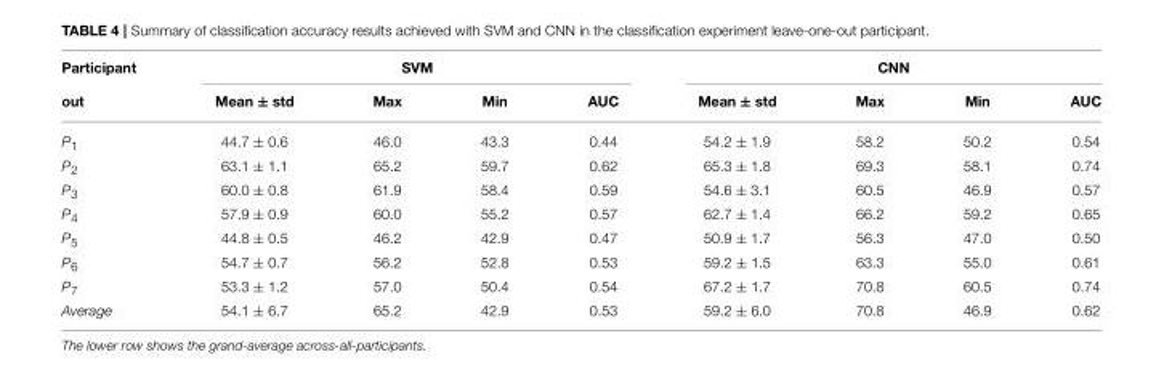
<table><thead><tr><td rowspan="2">Participant out</td><td colspan="4">SVM</td><td colspan="4">CNN</td></tr><tr><td>Mean ± std</td><td>Max</td><td>Min</td><td>AUC</td><td>Mean ± std</td><td>Max</td><td>Min</td><td>AUC</td></tr></thead><tbody><tr><td>P<sub>1</sub></td><td>44.7 ± 0.6</td><td>46.0</td><td>43.3</td><td>0.44</td><td>54.2 ± 1.9</td><td>58.2</td><td>50.2</td><td>0.54</td></tr><tr><td>P<sub>2</sub></td><td>63.1 ± 1.1</td><td>65.2</td><td>59.7</td><td>0.62</td><td>65.3 ± 1.8</td><td>69.3</td><td>58.1</td><td>0.74</td></tr><tr><td>P<sub>3</sub></td><td>60.0 ± 0.8</td><td>61.9</td><td>58.4</td><td>0.59</td><td>54.6 ± 3.1</td><td>60.5</td><td>46.9</td><td>0.57</td></tr><tr><td>P<sub>4</sub></td><td>57.9 ± 0.9</td><td>60.0</td><td>55.2</td><td>0.57</td><td>62.7 ± 1.4</td><td>66.2</td><td>59.2</td><td>0.65</td></tr><tr><td>P<sub>5</sub></td><td>44.8 ± 0.5</td><td>46.2</td><td>42.9</td><td>0.47</td><td>50.9 ± 1.7</td><td>56.3</td><td>47.0</td><td>0.50</td></tr><tr><td>P<sub>6</sub></td><td>54.7 ± 0.7</td><td>56.2</td><td>52.8</td><td>0.53</td><td>59.2 ± 1.5</td><td>63.3</td><td>55.0</td><td>0.61</td></tr><tr><td>P<sub>7</sub></td><td>53.3 ± 1.2</td><td>57.0</td><td>50.4</td><td>0.54</td><td>67.2 ± 1.7</td><td>70.8</td><td>60.5</td><td>0.74</td></tr><tr><td>Average</td><td>54.1 ± 6.7</td><td>65.2</td><td>42.9</td><td>0.53</td><td>59.2 ± 6.0</td><td>70.8</td><td>46.9</td><td>0.62</td></tr></tbody></table>